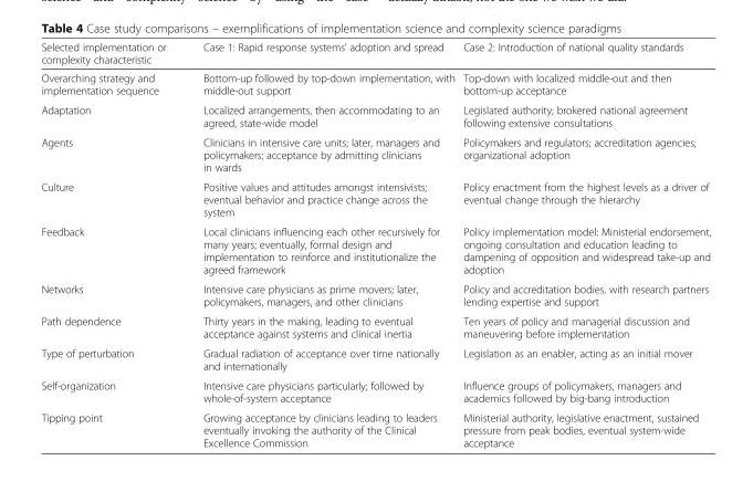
<table><thead><tr><td>Selected implementation or complexity characteristic</td><td>Case 1: Rapid response systems’ adoption and spread</td><td>Case 2: Introduction of national quality standards</td></tr></thead><tbody><tr><td>Overarching strategy and implementation sequence</td><td>Bottom-up followed by top-down implementation, with middle-out support</td><td>Top-down with localized middle-out and then bottom-up acceptance</td></tr><tr><td>Adaptation</td><td>Localized arrangements, then accommodating to an agreed, state-wide model</td><td>Legislated authority; brokered national agreement following extensive consultations</td></tr><tr><td>Agents</td><td>Clinicians in intensive care units; later, managers and policymakers; acceptance by admitting clinicians in wards</td><td>Policymakers and regulators; accreditation agencies; organizational adoption</td></tr><tr><td>Culture</td><td>Positive values and attitudes amongst intensivists; eventual behavior and practice change across the system</td><td>Policy enactment from the highest levels as a driver of eventual change through the hierarchy</td></tr><tr><td>Feedback</td><td>Local clinicians influencing each other recursively for many years; eventually, formal design and implementation to reinforce and institutionalize the agreed framework</td><td>Policy implementation model: Ministerial endorsement, ongoing consultation and education leading to dampening of opposition and widespread take-up and adoption</td></tr><tr><td>Networks</td><td>Intensive care physicians as prime movers; later, policymakers, managers, and other clinicians</td><td>Policy and accreditation bodies, with research partners lending expertise and support</td></tr><tr><td>Path dependence</td><td>Thirty years in the making, leading to eventual acceptance against systems and clinical inertia</td><td>Ten years of policy and managerial discussion and maneuvering before implementation</td></tr><tr><td>Type of perturbation</td><td>Gradual radiation of acceptance over time nationally and internationally</td><td>Legislation as an enabler, acting as an initial mover</td></tr><tr><td>Self-organization</td><td>Intensive care physicians particularly; followed by whole-of-system acceptance</td><td>Influence groups of policymakers, managers and academics followed by big-bang introduction</td></tr><tr><td>Tipping point</td><td>Growing acceptance by clinicians leading to leaders eventually invoking the authority of the Clinical Excellence Commission</td><td>Ministerial authority, legislative enactment, sustained pressure from peak bodies, eventual system-wide acceptance</td></tr></tbody></table>